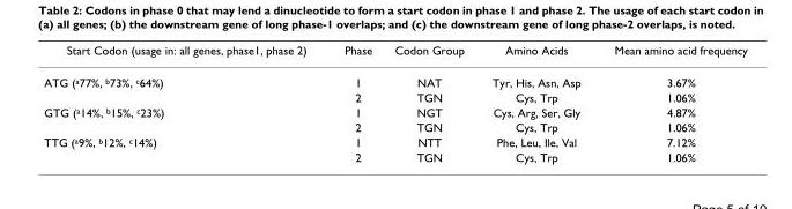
<table><thead><tr><td>Start Codon (usage in: all genes, phase1, phase 2)</td><td>Phase</td><td>Codon Group</td><td>Amino Acids</td><td>Mean amino acid frequency</td></tr></thead><tbody><tr><td rowspan="2">ATG (<sup>a</sup>77%, <sup>b</sup>73%, <sup>c</sup>64%)</td><td>1</td><td>NAT</td><td>Tyr, His, Asn, Asp</td><td>3.67%</td></tr><tr><td>2</td><td>TGN</td><td>Cys, Trp</td><td>1.06%</td></tr><tr><td rowspan="2">GTG (<sup>a</sup>14%, <sup>b</sup>15%, <sup>c</sup>23%)</td><td>1</td><td>NGT</td><td>Cys, Arg, Ser, Gly</td><td>4.87%</td></tr><tr><td>2</td><td>TGN</td><td>Cys, Trp</td><td>1.06%</td></tr><tr><td rowspan="2">TTG (<sup>a</sup>9%, <sup>b</sup>12%, <sup>c</sup>14%)</td><td>1</td><td>NTT</td><td>Phe, Leu, Ile, Val</td><td>7.12%</td></tr><tr><td>2</td><td>TGN</td><td>Cys, Trp</td><td>1.06%</td></tr></tbody></table>